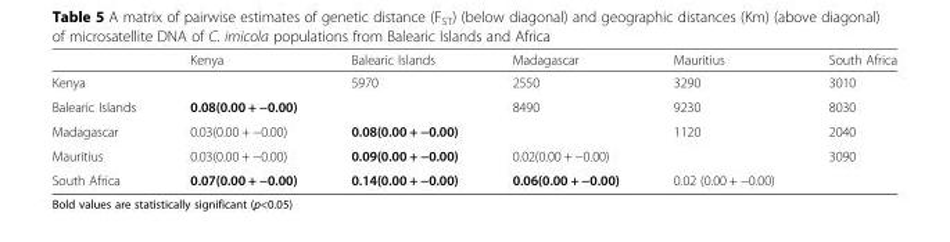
<table><thead><tr><td></td><td>Kenya</td><td>Balearic Islands</td><td>Madagascar</td><td>Mauritius</td><td>South Africa</td></tr></thead><tbody><tr><td>Kenya</td><td></td><td>5970</td><td>2550</td><td>3290</td><td>3010</td></tr><tr><td>Balearic Islands</td><td>0.08(0.00 + −0.00)</td><td></td><td>8490</td><td>9230</td><td>8030</td></tr><tr><td>Madagascar</td><td>0.03(0.00 + −0.00)</td><td>0.08(0.00 + −0.00)</td><td></td><td>1120</td><td>2040</td></tr><tr><td>Mauritius</td><td>0.03(0.00 + −0.00)</td><td>0.09(0.00 + −0.00)</td><td>0.02(0.00 + −0.00)</td><td></td><td>3090</td></tr><tr><td>South Africa</td><td>0.07(0.00 + −0.00)</td><td>0.14(0.00 + −0.00)</td><td>0.06(0.00 + −0.00)</td><td>0.02 (0.00 + −0.00)</td><td></td></tr></tbody></table>